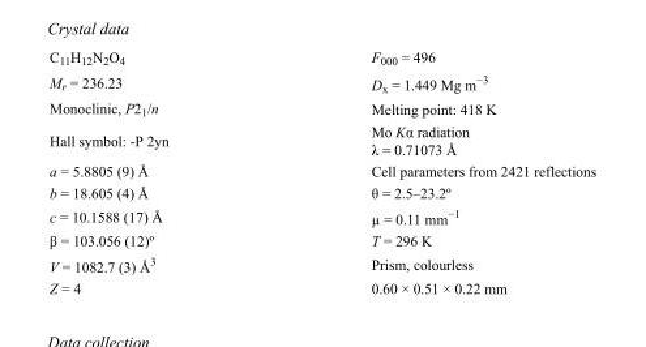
<table><tbody><tr><td>C<sub>11</sub>H<sub>12</sub>N<sub>2</sub>O<sub>4</sub></td><td>F<sub>000</sub> = 496</td></tr><tr><td>M<sub>r</sub> = 236.23</td><td>D<sub>x</sub> = 1.449 Mg m<sup>−3</sup></td></tr><tr><td>Monoclinic, P2<sub>1</sub>/n</td><td>Melting point: 418 K</td></tr><tr><td>Hall symbol: -P 2yn</td><td>Mo Kα radiation λ = 0.71073 Å</td></tr><tr><td>a = 5.8805 (9) Å</td><td>Cell parameters from 2421 reflections</td></tr><tr><td>b = 18.605 (4) Å</td><td>θ = 2.5–23.2º</td></tr><tr><td>c = 10.1588 (17) Å</td><td>µ = 0.11 mm<sup>−1</sup></td></tr><tr><td>β = 103.056 (12)º</td><td>T = 296 K</td></tr><tr><td>V = 1082.7 (3) Å<sup>3</sup></td><td>Prism, colourless</td></tr><tr><td>Z = 4</td><td>0.60 × 0.51 × 0.22 mm</td></tr></tbody></table>